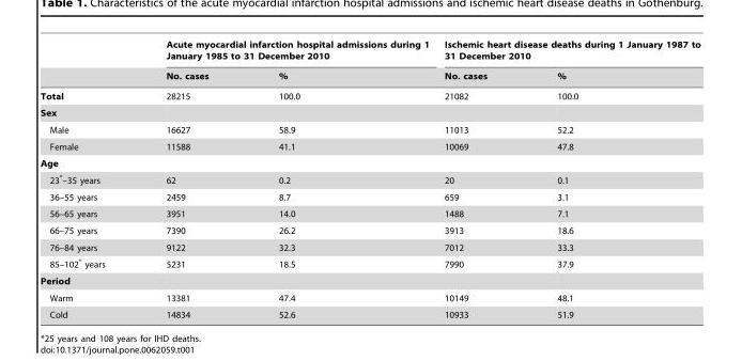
<table><thead><tr><td rowspan="2"></td><td colspan="2">Acute myocardial infarction hospital admissions during 1 January 1985 to 31 December 2010</td><td colspan="2">Ischemic heart disease deaths during 1 January 1987 to 31 December 2010</td></tr><tr><td>No. cases</td><td>%</td><td>No. cases</td><td>%</td></tr></thead><tbody><tr><td>Total</td><td>28215</td><td>100.0</td><td>21082</td><td>100.0</td></tr><tr><td colspan="5">Sex</td></tr><tr><td>Male</td><td>16627</td><td>58.9</td><td>11013</td><td>52.2</td></tr><tr><td>Female</td><td>11588</td><td>41.1</td><td>10069</td><td>47.8</td></tr><tr><td colspan="5">Age</td></tr><tr><td>23*–35 years</td><td>62</td><td>0.2</td><td>20</td><td>0.1</td></tr><tr><td>36–55 years</td><td>2459</td><td>8.7</td><td>659</td><td>3.1</td></tr><tr><td>56–65 years</td><td>3951</td><td>14.0</td><td>1488</td><td>7.1</td></tr><tr><td>66–75 years</td><td>7390</td><td>26.2</td><td>3913</td><td>18.6</td></tr><tr><td>76–84 years</td><td>9122</td><td>32.3</td><td>7012</td><td>33.3</td></tr><tr><td>85–102* years</td><td>5231</td><td>18.5</td><td>7990</td><td>37.9</td></tr><tr><td colspan="5">Period</td></tr><tr><td>Warm</td><td>13381</td><td>47.4</td><td>10149</td><td>48.1</td></tr><tr><td>Cold</td><td>14834</td><td>52.6</td><td>10933</td><td>51.9</td></tr></tbody></table>